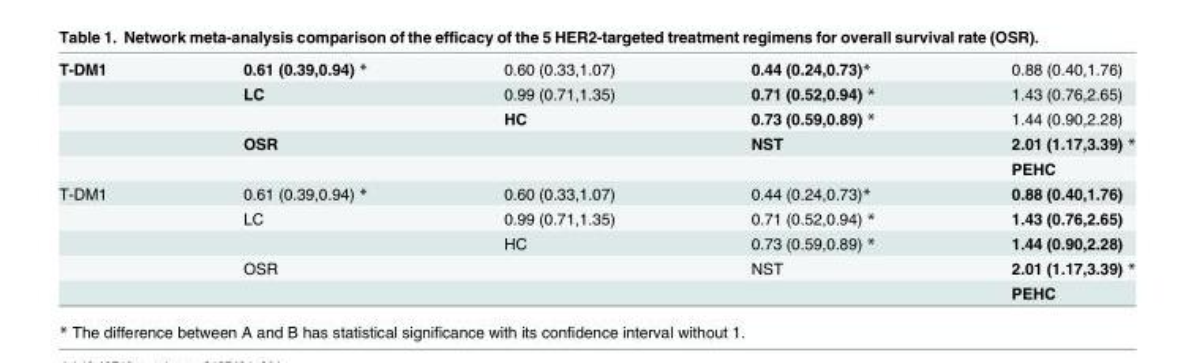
<table><tbody><tr><td rowspan="5">T-DM1</td><td>0.61 (0.39,0.94) *</td><td>0.60 (0.33,1.07)</td><td>0.44 (0.24,0.73)*</td><td>0.88 (0.40,1.76)</td></tr><tr><td>LC</td><td>0.99 (0.71,1.35)</td><td>0.71 (0.52,0.94) *</td><td>1.43 (0.76,2.65)</td></tr><tr><td></td><td>HC</td><td>0.73 (0.59,0.89) *</td><td>1.44 (0.90,2.28)</td></tr><tr><td>OSR</td><td></td><td>NST</td><td>2.01 (1.17,3.39)</td></tr><tr><td></td><td></td><td></td><td>PEHC</td></tr><tr><td rowspan="5">T-DM1</td><td>0.61 (0.39,0.94) *</td><td>0.60 (0.33,1.07)</td><td>0.44 (0.24,0.73)*</td><td>0.88 (0.40,1.76)</td></tr><tr><td>LC</td><td>0.99 (0.71,1.35)</td><td>0.71 (0.52,0.94) *</td><td>1.43 (0.76,2.65)</td></tr><tr><td></td><td>HC</td><td>0.73 (0.59,0.89) *</td><td>1.44 (0.90,2.28)</td></tr><tr><td>OSR</td><td></td><td>NST</td><td>2.01 (1.17,3.39)</td></tr><tr><td></td><td></td><td></td><td>PEHC</td></tr></tbody></table>